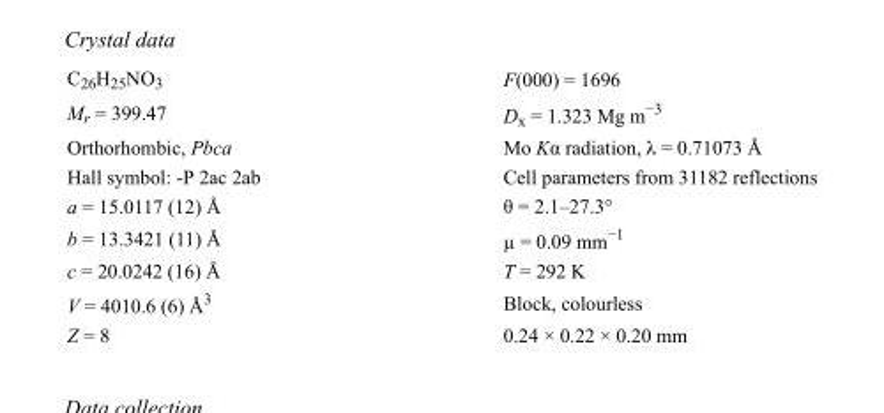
<table><tbody><tr><td>C<sub>26</sub>H<sub>25</sub>NO<sub>3</sub></td><td>F(000) = 1696</td></tr><tr><td>M<sub>r</sub> = 399.47</td><td>D<sub>x</sub> = 1.323 Mg m<sup>−3</sup></td></tr><tr><td>Orthorhombic, Pbca</td><td>Mo Kα radiation, λ = 0.71073 Å</td></tr><tr><td>Hall symbol: -P 2ac 2ab</td><td>Cell parameters from 31182 reflections</td></tr><tr><td>a = 15.0117 (12) Å</td><td>θ = 2.1–27.3°</td></tr><tr><td>b = 13.3421 (11) Å</td><td>µ = 0.09 mm<sup>−1</sup></td></tr><tr><td>c = 20.0242 (16) Å</td><td>T = 292 K</td></tr><tr><td>V = 4010.6 (6) Å<sup>3</sup></td><td>Block, colourless</td></tr><tr><td>Z = 8</td><td>0.24 × 0.22 × 0.20 mm</td></tr></tbody></table>